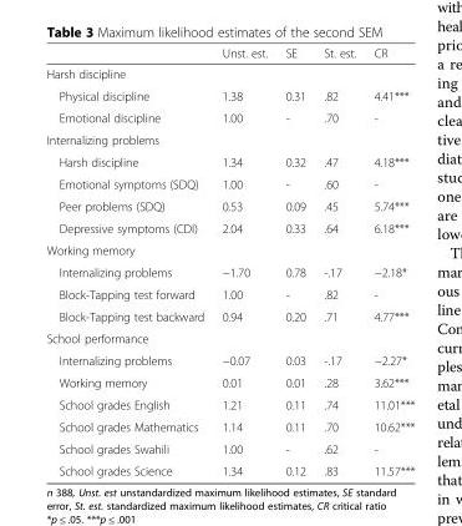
<table><thead><tr><td></td><td>Unst. est.</td><td>SE</td><td>St. est.</td><td>CR</td></tr></thead><tbody><tr><td colspan="5">Harsh discipline</td></tr><tr><td>Physical discipline</td><td>1.38</td><td>0.31</td><td>.82</td><td>4.41***</td></tr><tr><td>Emotional discipline</td><td>1.00</td><td>-</td><td>.70</td><td>-</td></tr><tr><td colspan="5">Internalizing problems</td></tr><tr><td>Harsh discipline</td><td>1.34</td><td>0.32</td><td>.47</td><td>4.18***</td></tr><tr><td>Emotional symptoms (SDQ)</td><td>1.00</td><td>-</td><td>.60</td><td>-</td></tr><tr><td>Peer problems (SDQ)</td><td>0.53</td><td>0.09</td><td>.45</td><td>5.74***</td></tr><tr><td>Depressive symptoms (CDI)</td><td>2.04</td><td>0.33</td><td>.64</td><td>6.18***</td></tr><tr><td colspan="5">Working memory</td></tr><tr><td>Internalizing problems</td><td>−1.70</td><td>0.78</td><td>-.17</td><td>−2.18*</td></tr><tr><td>Block-Tapping test forward</td><td>1.00</td><td>-</td><td>.82</td><td>-</td></tr><tr><td>Block-Tapping test backward</td><td>0.94</td><td>0.20</td><td>.71</td><td>4.77***</td></tr><tr><td colspan="5">School performance</td></tr><tr><td>Internalizing problems</td><td>−0.07</td><td>0.03</td><td>-.17</td><td>−2.27*</td></tr><tr><td>Working memory</td><td>0.01</td><td>0.01</td><td>.28</td><td>3.62***</td></tr><tr><td>School grades English</td><td>1.21</td><td>0.11</td><td>.74</td><td>11.01***</td></tr><tr><td>School grades Mathematics</td><td>1.14</td><td>0.11</td><td>.70</td><td>10.62***</td></tr><tr><td>School grades Swahili</td><td>1.00</td><td>-</td><td>.62</td><td>-</td></tr><tr><td>School grades Science</td><td>1.34</td><td>0.12</td><td>.83</td><td>11.57***</td></tr></tbody></table>